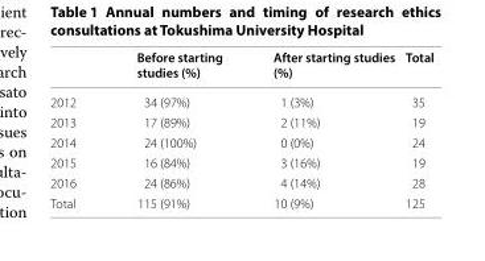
<table><thead><tr><td></td><td>Before starting studies (%)</td><td>After starting studies (%)</td><td>Total</td></tr></thead><tbody><tr><td>2012</td><td>34 (97%)</td><td>1 (3%)</td><td>35</td></tr><tr><td>2013</td><td>17 (89%)</td><td>2 (11%)</td><td>19</td></tr><tr><td>2014</td><td>24 (100%)</td><td>0 (0%)</td><td>24</td></tr><tr><td>2015</td><td>16 (84%)</td><td>3 (16%)</td><td>19</td></tr><tr><td>2016</td><td>24 (86%)</td><td>4 (14%)</td><td>28</td></tr><tr><td>Total</td><td>115 (91%)</td><td>10 (9%)</td><td>125</td></tr></tbody></table>